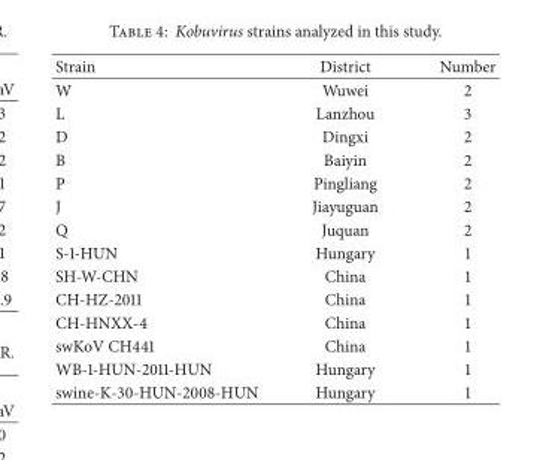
<table><thead><tr><td>Strain</td><td>District</td><td>Number</td></tr></thead><tbody><tr><td>W</td><td>Wuwei</td><td>2</td></tr><tr><td>L</td><td>Lanzhou</td><td>3</td></tr><tr><td>D</td><td>Dingxi</td><td>2</td></tr><tr><td>B</td><td>Baiyin</td><td>2</td></tr><tr><td>P</td><td>Pingliang</td><td>2</td></tr><tr><td>J</td><td>Jiayuguan</td><td>2</td></tr><tr><td>Q</td><td>Juquan</td><td>2</td></tr><tr><td>S-1-HUN</td><td>Hungary</td><td>1</td></tr><tr><td>SH-W-CHN</td><td>China</td><td>1</td></tr><tr><td>CH-HZ-2011</td><td>China</td><td>1</td></tr><tr><td>CH-HNXX-4</td><td>China</td><td>1</td></tr><tr><td>swKoV CH441</td><td>China</td><td>1</td></tr><tr><td>WB-1-HUN-2011-HUN</td><td>Hungary</td><td>1</td></tr><tr><td>swine-K-30-HUN-2008-HUN</td><td>Hungary</td><td>1</td></tr></tbody></table>